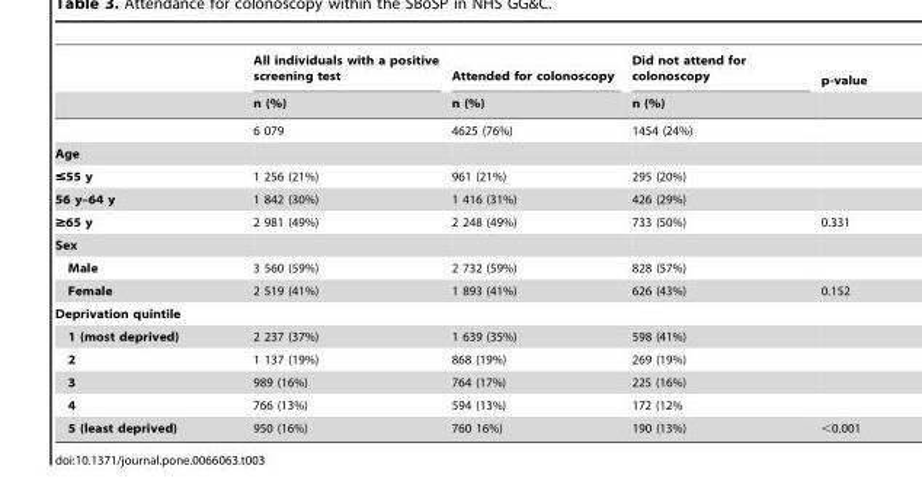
<table><thead><tr><td rowspan="2"></td><td rowspan="2">All individuals with a positive screening test n (%)</td><td rowspan="2">Attended for colonoscopy n (%)</td><td rowspan="2">Did not attend for colonoscopy n (%)</td><td rowspan="2">p-value</td></tr><tr></tr></thead><tbody><tr><td></td><td>6 079</td><td>4625 (76%)</td><td>1454 (24%)</td><td></td></tr><tr><td colspan="5">Age</td></tr><tr><td>≤55 y</td><td>1 256 (21%)</td><td>961 (21%)</td><td>295 (20%)</td><td></td></tr><tr><td>56 y–64 y</td><td>1 842 (30%)</td><td>1 416 (31%)</td><td>426 (29%)</td><td></td></tr><tr><td>≥65 y</td><td>2 981 (49%)</td><td>2 248 (49%)</td><td>733 (50%)</td><td>0.331</td></tr><tr><td colspan="5">Sex</td></tr><tr><td>Male</td><td>3 560 (59%)</td><td>2 732 (59%)</td><td>828 (57%)</td><td></td></tr><tr><td>Female</td><td>2 519 (41%)</td><td>1 893 (41%)</td><td>626 (43%)</td><td>0.152</td></tr><tr><td colspan="5">Deprivation quintile</td></tr><tr><td>1 (most deprived)</td><td>2 237 (37%)</td><td>1 639 (35%)</td><td>598 (41%)</td><td></td></tr><tr><td>2</td><td>1 137 (19%)</td><td>868 (19%)</td><td>269 (19%)</td><td></td></tr><tr><td>3</td><td>989 (16%)</td><td>764 (17%)</td><td>225 (16%)</td><td></td></tr><tr><td>4</td><td>766 (13%)</td><td>594 (13%)</td><td>172 (12%</td><td></td></tr><tr><td>5 (least deprived)</td><td>950 (16%)</td><td>760 16%)</td><td>190 (13%)</td><td>&lt;0.001</td></tr></tbody></table>